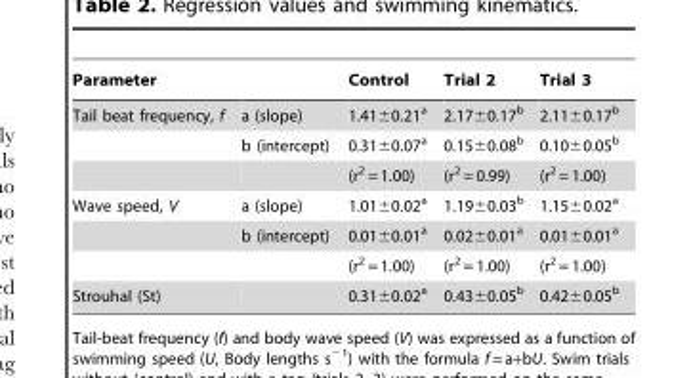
<table><thead><tr><td>Parameter</td><td></td><td>Control</td><td>Trial 2</td><td>Trial 3</td></tr></thead><tbody><tr><td rowspan="3">Tail beat frequency, f</td><td>a (slope)</td><td>1.41±0.21<sup>a</sup></td><td>2.17±0.17<sup>b</sup></td><td>2.11±0.17<sup>b</sup></td></tr><tr><td>b (intercept)</td><td>0.31±0.07<sup>a</sup></td><td>0.15±0.08<sup>b</sup></td><td>0.10±0.05<sup>b</sup></td></tr><tr><td></td><td>(r<sup>2</sup> = 1.00)</td><td>(r<sup>2</sup> = 0.99)</td><td>(r<sup>2</sup> = 1.00)</td></tr><tr><td rowspan="3">Wave speed, V</td><td>a (slope)</td><td>1.01±0.02<sup>a</sup></td><td>1.19±0.03<sup>b</sup></td><td>1.15±0.02<sup>a</sup></td></tr><tr><td>b (intercept)</td><td>0.01±0.01<sup>a</sup></td><td>0.02±0.01<sup>a</sup></td><td>0.01±0.01<sup>a</sup></td></tr><tr><td></td><td>(r<sup>2</sup> = 1.00)</td><td>(r<sup>2</sup> = 1.00)</td><td>(r<sup>2</sup> = 1.00)</td></tr><tr><td>Strouhal (St)</td><td></td><td>0.31±0.02<sup>a</sup></td><td>0.43±0.05<sup>b</sup></td><td>0.42±0.05<sup>b</sup></td></tr></tbody></table>